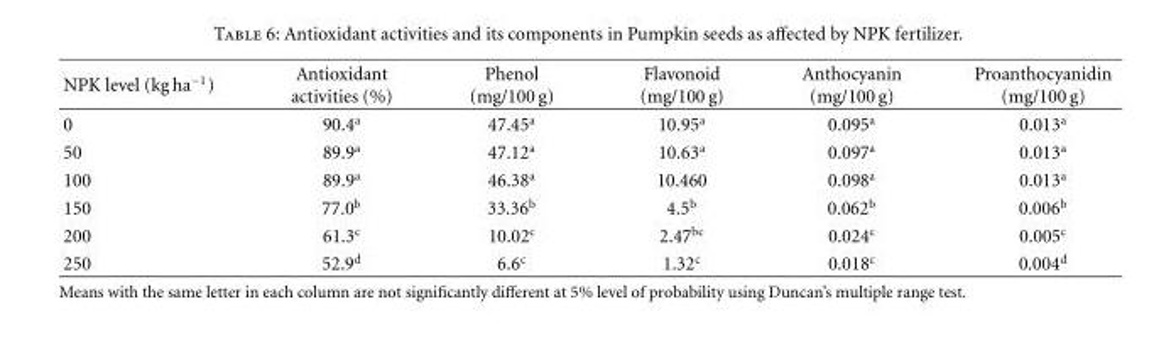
<table><thead><tr><td>NPK level (kg ha<sup>−1</sup>)</td><td>Antioxidant activities (%)</td><td>Phenol (mg/100 g)</td><td>Flavonoid (mg/100 g)</td><td>Anthocyanin (mg/100 g)</td><td>Proanthocyanidin (mg/100 g)</td></tr></thead><tbody><tr><td>0</td><td>90.4<sup>a</sup></td><td>47.45<sup>a</sup></td><td>10.95<sup>a</sup></td><td>0.095<sup>a</sup></td><td>0.013<sup>a</sup></td></tr><tr><td>50</td><td>89.9<sup>a</sup></td><td>47.12<sup>a</sup></td><td>10.63<sup>a</sup></td><td>0.097<sup>a</sup></td><td>0.013<sup>a</sup></td></tr><tr><td>100</td><td>89.9<sup>a</sup></td><td>46.38<sup>a</sup></td><td>10.460</td><td>0.098<sup>a</sup></td><td>0.013<sup>a</sup></td></tr><tr><td>150</td><td>77.0<sup>b</sup></td><td>33.36<sup>b</sup></td><td>4.5<sup>b</sup></td><td>0.062<sup>b</sup></td><td>0.006<sup>b</sup></td></tr><tr><td>200</td><td>61.3<sup>c</sup></td><td>10.02<sup>c</sup></td><td>2.47<sup>bc</sup></td><td>0.024<sup>c</sup></td><td>0.005<sup>c</sup></td></tr><tr><td>250</td><td>52.9<sup>d</sup></td><td>6.6<sup>c</sup></td><td>1.32<sup>c</sup></td><td>0.018<sup>c</sup></td><td>0.004<sup>d</sup></td></tr></tbody></table>